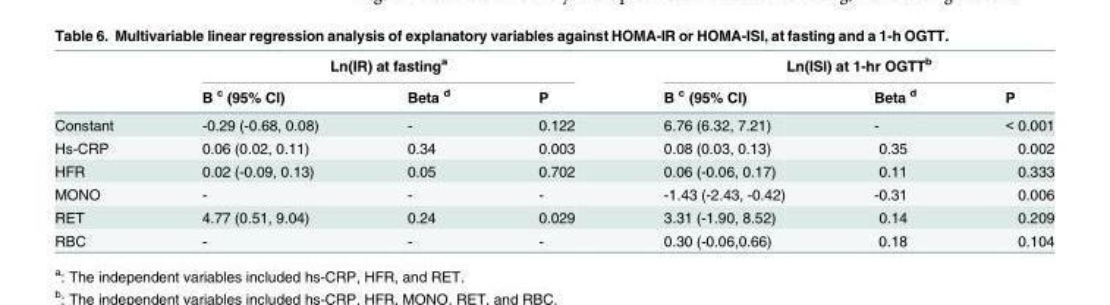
<table><thead><tr><td rowspan="2"></td><td colspan="3">Ln(IR) at fasting<sup>a</sup></td><td colspan="3">Ln(ISI) at 1-hr OGTT<sup>b</sup></td></tr><tr><td>B <sup>c</sup> (95% CI)</td><td>Beta <sup>d</sup></td><td>P</td><td>B <sup>c</sup> (95% CI)</td><td>Beta <sup>d</sup></td><td>P</td></tr></thead><tbody><tr><td>Constant</td><td>-0.29 (-0.68, 0.08)</td><td>-</td><td>0.122</td><td>6.76 (6.32, 7.21)</td><td>-</td><td>&lt; 0.001</td></tr><tr><td>Hs-CRP</td><td>0.06 (0.02, 0.11)</td><td>0.34</td><td>0.003</td><td>0.08 (0.03, 0.13)</td><td>0.35</td><td>0.002</td></tr><tr><td>HFR</td><td>0.02 (-0.09, 0.13)</td><td>0.05</td><td>0.702</td><td>0.06 (-0.06, 0.17)</td><td>0.11</td><td>0.333</td></tr><tr><td>MONO</td><td>-</td><td>-</td><td>-</td><td>-1.43 (-2.43, -0.42)</td><td>-0.31</td><td>0.006</td></tr><tr><td>RET</td><td>4.77 (0.51, 9.04)</td><td>0.24</td><td>0.029</td><td>3.31 (-1.90, 8.52)</td><td>0.14</td><td>0.209</td></tr><tr><td>RBC</td><td>-</td><td>-</td><td>-</td><td>0.30 (-0.06,0.66)</td><td>0.18</td><td>0.104</td></tr></tbody></table>